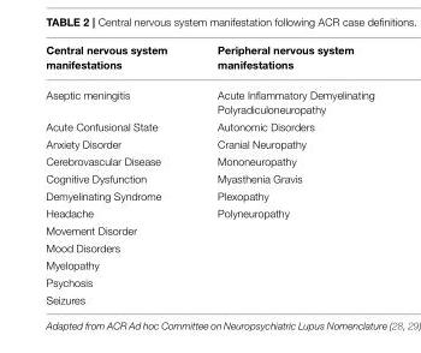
<table><thead><tr><td>Central nervous system manifestations</td><td>Peripheral nervous system manifestations</td></tr></thead><tbody><tr><td>Aseptic meningitis</td><td>Acute Inflammatory Demyelinating Polyradiculoneuropathy</td></tr><tr><td>Acute Confusional State</td><td>Autonomic Disorders</td></tr><tr><td>Anxiety Disorder</td><td>Cranial Neuropathy</td></tr><tr><td>Cerebrovascular Disease</td><td>Mononeuropathy</td></tr><tr><td>Cognitive Dysfunction</td><td>Myasthenia Gravis</td></tr><tr><td>Demyelinating Syndrome</td><td>Plexopathy</td></tr><tr><td>Headache</td><td>Polyneuropathy</td></tr><tr><td colspan="2">Movement Disorder</td></tr><tr><td colspan="2">Mood Disorders</td></tr><tr><td colspan="2">Myelopathy</td></tr><tr><td colspan="2">Psychosis</td></tr><tr><td>Seizures</td><td></td></tr></tbody></table>